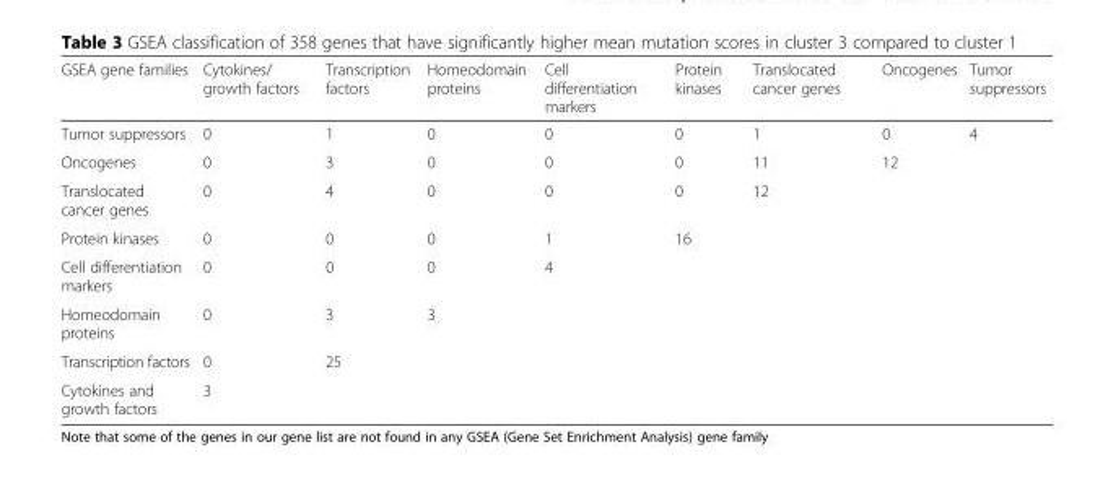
<table><thead><tr><td>GSEA gene families</td><td>Cytokines/ growth factors</td><td>Transcription factors</td><td>Homeodomain proteins</td><td>Cell differentiation markers</td><td>Protein kinases</td><td>Translocated cancer genes</td><td>Oncogenes</td><td>Tumor suppressors</td></tr></thead><tbody><tr><td>Tumor suppressors</td><td>0</td><td>1</td><td>0</td><td>0</td><td>0</td><td>1</td><td>0</td><td>4</td></tr><tr><td>Oncogenes</td><td>0</td><td>3</td><td>0</td><td>0</td><td>0</td><td>11</td><td>12</td><td></td></tr><tr><td>Translocated cancer genes</td><td>0</td><td>4</td><td>0</td><td>0</td><td>0</td><td>12</td><td></td><td></td></tr><tr><td>Protein kinases</td><td>0</td><td>0</td><td>0</td><td>1</td><td>16</td><td></td><td></td><td></td></tr><tr><td>Cell differentiation markers</td><td>0</td><td>0</td><td>0</td><td>4</td><td></td><td></td><td></td><td></td></tr><tr><td>Homeodomain proteins</td><td>0</td><td>3</td><td>3</td><td></td><td></td><td></td><td></td><td></td></tr><tr><td>Transcription factors</td><td>0</td><td>25</td><td></td><td></td><td></td><td></td><td></td><td></td></tr><tr><td>Cytokines and growth factors</td><td>3</td><td></td><td></td><td></td><td></td><td></td><td></td><td></td></tr></tbody></table>